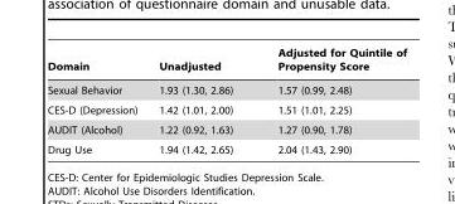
<table><thead><tr><td>Domain</td><td>Unadjusted</td><td>Adjusted for Quintile of Propensity Score</td></tr></thead><tbody><tr><td>Sexual Behavior</td><td>1.93 (1.30, 2.86)</td><td>1.57 (0.99, 2.48)</td></tr><tr><td>CES-D (Depression)</td><td>1.42 (1.01, 2.00)</td><td>1.51 (1.01, 2.25)</td></tr><tr><td>AUDIT (Alcohol)</td><td>1.22 (0.92, 1.63)</td><td>1.27 (0.90, 1.78)</td></tr><tr><td>Drug Use</td><td>1.94 (1.42, 2.65)</td><td>2.04 (1.43, 2.90)</td></tr></tbody></table>